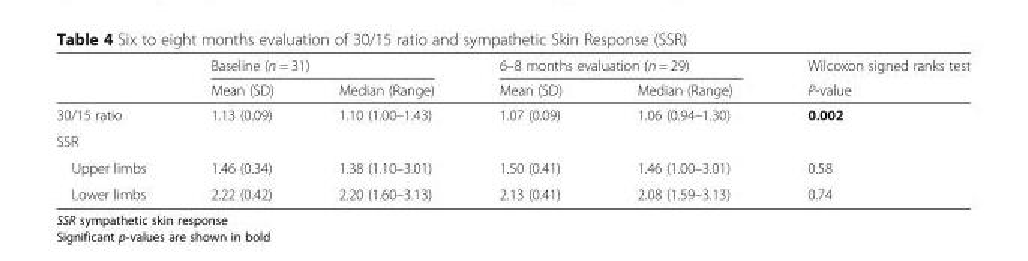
<table><thead><tr><td rowspan="2"></td><td colspan="2">Baseline (n = 31)</td><td colspan="2">6–8 months evaluation (n = 29)</td><td rowspan="2">Wilcoxon signed ranks test P-value</td></tr><tr><td>Mean (SD)</td><td>Median (Range)</td><td>Mean (SD)</td><td>Median (Range)</td></tr></thead><tbody><tr><td>30/15 ratio</td><td>1.13 (0.09)</td><td>1.10 (1.00–1.43)</td><td>1.07 (0.09)</td><td>1.06 (0.94–1.30)</td><td>0.002</td></tr><tr><td colspan="6">SSR</td></tr><tr><td>Upper limbs</td><td>1.46 (0.34)</td><td>1.38 (1.10–3.01)</td><td>1.50 (0.41)</td><td>1.46 (1.00–3.01)</td><td>0.58</td></tr><tr><td>Lower limbs</td><td>2.22 (0.42)</td><td>2.20 (1.60–3.13)</td><td>2.13 (0.41)</td><td>2.08 (1.59–3.13)</td><td>0.74</td></tr></tbody></table>